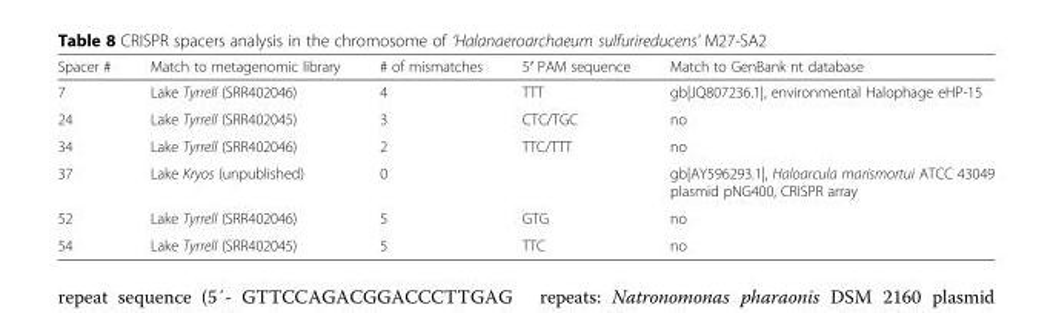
<table><thead><tr><td>Spacer #</td><td>Match to metagenomic library</td><td># of mismatches</td><td>5′ PAM sequence</td><td>Match to GenBank nt database</td></tr></thead><tbody><tr><td>7</td><td>Lake Tyrrell (SRR402046)</td><td>4</td><td>TTT</td><td>gb|JQ807236.1|, environmental Halophage eHP-15</td></tr><tr><td>24</td><td>Lake Tyrrell (SRR402045)</td><td>3</td><td>CTC/TGC</td><td>no</td></tr><tr><td>34</td><td>Lake Tyrrell (SRR402046)</td><td>2</td><td>TTC/TTT</td><td>no</td></tr><tr><td>37</td><td>Lake Kryos (unpublished)</td><td>0</td><td></td><td>gb|AY596293.1|, Haloarcula marismortui ATCC 43049 plasmid pNG400, CRISPR array</td></tr><tr><td>52</td><td>Lake Tyrrell (SRR402046)</td><td>5</td><td>GTG</td><td>no</td></tr><tr><td>54</td><td>Lake Tyrrell (SRR402045)</td><td>5</td><td>TTC</td><td>no</td></tr></tbody></table>